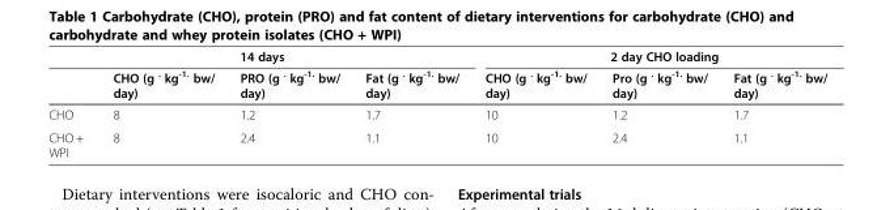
<table><thead><tr><td colspan="4">14 days</td><td colspan="3">2 day CHO loading</td></tr><tr><td></td><td>CHO (g <sup>.</sup> kg<sup>-1.</sup> bw/ day)</td><td>PRO (g <sup>.</sup> kg<sup>-1.</sup> bw/ day)</td><td>Fat (g <sup>.</sup> kg<sup>-1.</sup> bw/ day)</td><td>CHO (g <sup>.</sup> kg<sup>-1.</sup> bw/ day)</td><td>Pro (g <sup>.</sup> kg<sup>-1.</sup> bw/ day)</td><td>Fat (g <sup>.</sup> kg<sup>-1.</sup> bw/ day)</td></tr></thead><tbody><tr><td>CHO</td><td>8</td><td>1.2</td><td>1.7</td><td>10</td><td>1.2</td><td>1.7</td></tr><tr><td>CHO + WPI</td><td>8</td><td>2.4</td><td>1.1</td><td>10</td><td>2.4</td><td>1.1</td></tr></tbody></table>